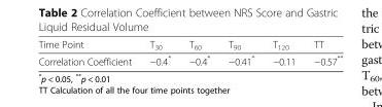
<table><thead><tr><td>Time Point</td><td>T<sub>30</sub></td><td>T<sub>60</sub></td><td>T<sub>90</sub></td><td>T<sub>120</sub></td><td>TT</td></tr></thead><tbody><tr><td>Correlation Coefficient</td><td>−0.4*</td><td>−0.4*</td><td>−0.41*</td><td>−0.11</td><td>−0.57**</td></tr></tbody></table>